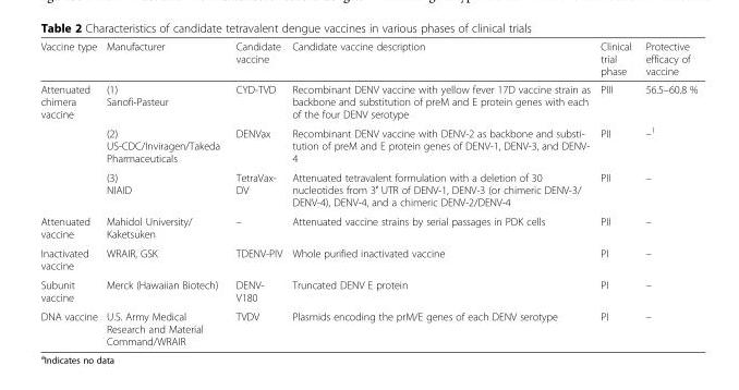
<table><thead><tr><td>Vaccine type</td><td>Manufacturer</td><td>Candidate vaccine</td><td>Candidate vaccine description</td><td>Clinical trial phase</td><td>Protective efficacy of vaccine</td></tr></thead><tbody><tr><td rowspan="3">Attenuated chimera vaccine</td><td>(1) Sanofi-Pasteur</td><td>CYD-TVD</td><td>Recombinant DENV vaccine with yellow fever 17D vaccine strain as backbone and substitution of preM and E protein genes with each of the four DENV serotype</td><td>PIII</td><td>56.5–60.8 %</td></tr><tr><td>(2) US-CDC/Inviragen/Takeda Pharmaceuticals</td><td>DENVax</td><td>Recombinant DENV vaccine with DENV-2 as backbone and substi- tution of preM and E protein genes of DENV-1, DENV-3, and DENV- 4</td><td>PII</td><td>–<sup>1</sup></td></tr><tr><td>(3) NIAID</td><td>TetraVax- DV</td><td>Attenuated tetravalent formulation with a deletion of 30 nucleotides from 3′ UTR of DENV-1, DENV-3 (or chimeric DENV-3/ DENV-4), DENV-4, and a chimeric DENV-2/DENV-4</td><td>PII</td><td>–</td></tr><tr><td>Attenuated vaccine</td><td>Mahidol University/ Kaketsuken</td><td>–</td><td>Attenuated vaccine strains by serial passages in PDK cells</td><td>PII</td><td>–</td></tr><tr><td>Inactivated vaccine</td><td>WRAIR, GSK</td><td>TDENV-PIV</td><td>Whole purified inactivated vaccine</td><td>PI</td><td>–</td></tr><tr><td>Subunit vaccine</td><td>Merck (Hawaiian Biotech)</td><td>DENV- V180</td><td>Truncated DENV E protein</td><td>PI</td><td>–</td></tr><tr><td>DNA vaccine</td><td>U.S. Army Medical Research and Material Command/WRAIR</td><td>TVDV</td><td>Plasmids encoding the prM/E genes of each DENV serotype</td><td>PI</td><td>–</td></tr></tbody></table>